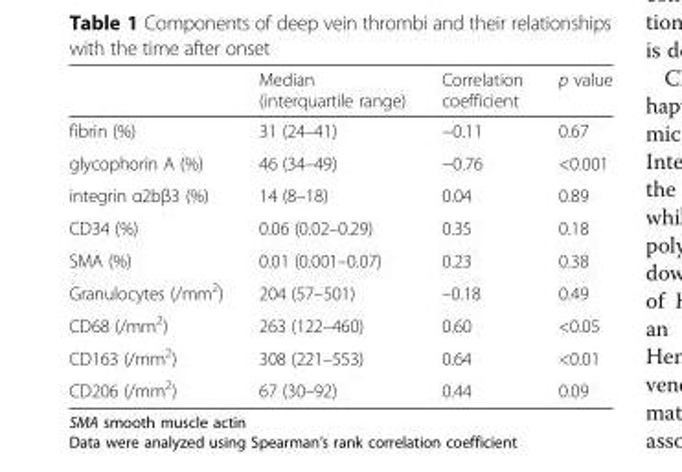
<table><thead><tr><td></td><td>Median (interquartile range)</td><td>Correlation coefficient</td><td>p value</td></tr></thead><tbody><tr><td>fibrin (%)</td><td>31 (24–41)</td><td>−0.11</td><td>0.67</td></tr><tr><td>glycophorin A (%)</td><td>46 (34–49)</td><td>−0.76</td><td>&lt;0.001</td></tr><tr><td>integrin α2bβ3 (%)</td><td>14 (8–18)</td><td>0.04</td><td>0.89</td></tr><tr><td>CD34 (%)</td><td>0.06 (0.02–0.29)</td><td>0.35</td><td>0.18</td></tr><tr><td>SMA (%)</td><td>0.01 (0.001–0.07)</td><td>0.23</td><td>0.38</td></tr><tr><td>Granulocytes (/mm<sup>2</sup>)</td><td>204 (57–501)</td><td>–0.18</td><td>0.49</td></tr><tr><td>CD68 (/mm<sup>2</sup>)</td><td>263 (122–460)</td><td>0.60</td><td>&lt;0.05</td></tr><tr><td>CD163 (/mm<sup>2</sup>)</td><td>308 (221–553)</td><td>0.64</td><td>&lt;0.01</td></tr><tr><td>CD206 (/mm<sup>2</sup>)</td><td>67 (30–92)</td><td>0.44</td><td>0.09</td></tr></tbody></table>